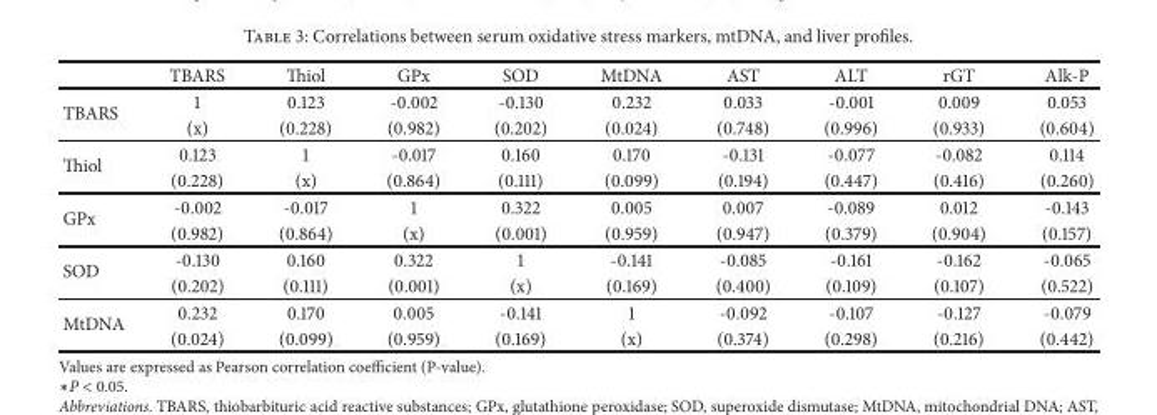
<table><thead><tr><td></td><td>TBARS</td><td>Thiol</td><td>GPx</td><td>SOD</td><td>MtDNA</td><td>AST</td><td>ALT</td><td>rGT</td><td>Alk-P</td></tr></thead><tbody><tr><td rowspan="2">TBARS</td><td>1</td><td>0.123</td><td>-0.002</td><td>-0.130</td><td>0.232</td><td>0.033</td><td>-0.001</td><td>0.009</td><td>0.053</td></tr><tr><td>(x)</td><td>(0.228)</td><td>(0.982)</td><td>(0.202)</td><td>(0.024)</td><td>(0.748)</td><td>(0.996)</td><td>(0.933)</td><td>(0.604)</td></tr><tr><td rowspan="2">Thiol</td><td>0.123</td><td>1</td><td>-0.017</td><td>0.160</td><td>0.170</td><td>-0.131</td><td>-0.077</td><td>-0.082</td><td>0.114</td></tr><tr><td>(0.228)</td><td>(x)</td><td>(0.864)</td><td>(0.111)</td><td>(0.099)</td><td>(0.194)</td><td>(0.447)</td><td>(0.416)</td><td>(0.260)</td></tr><tr><td rowspan="2">GPx</td><td>-0.002</td><td>-0.017</td><td>1</td><td>0.322</td><td>0.005</td><td>0.007</td><td>-0.089</td><td>0.012</td><td>-0.143</td></tr><tr><td>(0.982)</td><td>(0.864)</td><td>(x)</td><td>(0.001)</td><td>(0.959)</td><td>(0.947)</td><td>(0.379)</td><td>(0.904)</td><td>(0.157)</td></tr><tr><td rowspan="2">SOD</td><td>-0.130</td><td>0.160</td><td>0.322</td><td>1</td><td>-0.141</td><td>-0.085</td><td>-0.161</td><td>-0.162</td><td>-0.065</td></tr><tr><td>(0.202)</td><td>(0.111)</td><td>(0.001)</td><td>(x)</td><td>(0.169)</td><td>(0.400)</td><td>(0.109)</td><td>(0.107)</td><td>(0.522)</td></tr><tr><td rowspan="2">MtDNA</td><td>0.232</td><td>0.170</td><td>0.005</td><td>-0.141</td><td>1</td><td>-0.092</td><td>-0.107</td><td>-0.127</td><td>-0.079</td></tr><tr><td>(0.024)</td><td>(0.099)</td><td>(0.959)</td><td>(0.169)</td><td>(x)</td><td>(0.374)</td><td>(0.298)</td><td>(0.216)</td><td>(0.442)</td></tr></tbody></table>